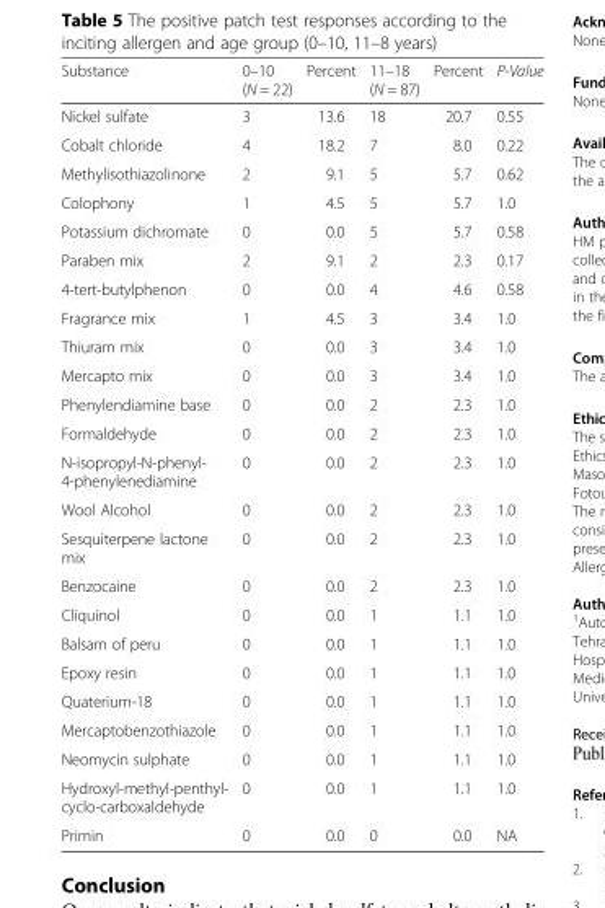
<table><thead><tr><td>Substance</td><td>0–10 (N = 22)</td><td>Percent</td><td>11–18 (N = 87)</td><td>Percent</td><td>P-Value</td></tr></thead><tbody><tr><td>Nickel sulfate</td><td>3</td><td>13.6</td><td>18</td><td>20.7</td><td>0.55</td></tr><tr><td>Cobalt chloride</td><td>4</td><td>18.2</td><td>7</td><td>8.0</td><td>0.22</td></tr><tr><td>Methylisothiazolinone</td><td>2</td><td>9.1</td><td>5</td><td>5.7</td><td>0.62</td></tr><tr><td>Colophony</td><td>1</td><td>4.5</td><td>5</td><td>5.7</td><td>1.0</td></tr><tr><td>Potassium dichromate</td><td>0</td><td>0.0</td><td>5</td><td>5.7</td><td>0.58</td></tr><tr><td>Paraben mix</td><td>2</td><td>9.1</td><td>2</td><td>2.3</td><td>0.17</td></tr><tr><td>4-tert-butylphenon</td><td>0</td><td>0.0</td><td>4</td><td>4.6</td><td>0.58</td></tr><tr><td>Fragrance mix</td><td>1</td><td>4.5</td><td>3</td><td>3.4</td><td>1.0</td></tr><tr><td>Thiuram mix</td><td>0</td><td>0.0</td><td>3</td><td>3.4</td><td>1.0</td></tr><tr><td>Mercapto mix</td><td>0</td><td>0.0</td><td>3</td><td>3.4</td><td>1.0</td></tr><tr><td>Phenylendiamine base</td><td>0</td><td>0.0</td><td>2</td><td>2.3</td><td>1.0</td></tr><tr><td>Formaldehyde</td><td>0</td><td>0.0</td><td>2</td><td>2.3</td><td>1.0</td></tr><tr><td>N-isopropyl-N-phenyl- 4-phenylenediamine</td><td>0</td><td>0.0</td><td>2</td><td>2.3</td><td>1.0</td></tr><tr><td>Wool Alcohol</td><td>0</td><td>0.0</td><td>2</td><td>2.3</td><td>1.0</td></tr><tr><td>Sesquiterpene lactone mix</td><td>0</td><td>0.0</td><td>2</td><td>2.3</td><td>1.0</td></tr><tr><td>Benzocaine</td><td>0</td><td>0.0</td><td>2</td><td>2.3</td><td>1.0</td></tr><tr><td>Cliquinol</td><td>0</td><td>0.0</td><td>1</td><td>1.1</td><td>1.0</td></tr><tr><td>Balsam of peru</td><td>0</td><td>0.0</td><td>1</td><td>1.1</td><td>1.0</td></tr><tr><td>Epoxy resin</td><td>0</td><td>0.0</td><td>1</td><td>1.1</td><td>1.0</td></tr><tr><td>Quaterium-18</td><td>0</td><td>0.0</td><td>1</td><td>1.1</td><td>1.0</td></tr><tr><td>Mercaptobenzothiazole</td><td>0</td><td>0.0</td><td>1</td><td>1.1</td><td>1.0</td></tr><tr><td>Neomycin sulphate</td><td>0</td><td>0.0</td><td>1</td><td>1.1</td><td>1.0</td></tr><tr><td>Hydroxyl-methyl-penthyl- cyclo-carboxaldehyde</td><td>0</td><td>0.0</td><td>1</td><td>1.1</td><td>1.0</td></tr><tr><td>Primin</td><td>0</td><td>0.0</td><td>0</td><td>0.0</td><td>NA</td></tr></tbody></table>